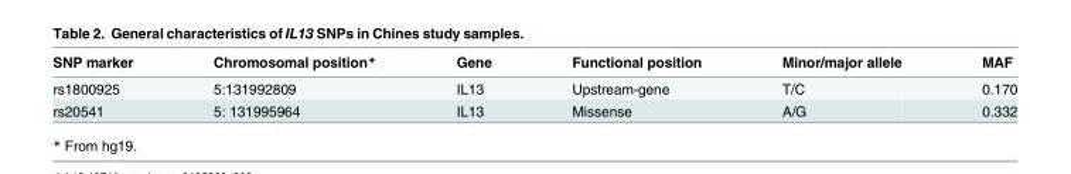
<table><thead><tr><td>SNP marker</td><td>Chromosomal position*</td><td>Gene</td><td>Functional position</td><td>Minor/major allele</td><td>MAF</td></tr></thead><tbody><tr><td>rs1800925</td><td>5:131992809</td><td>IL13</td><td>Upstream-gene</td><td>T/C</td><td>0.170</td></tr><tr><td>rs20541</td><td>5: 131995964</td><td>IL13</td><td>Missense</td><td>A/G</td><td>0.332</td></tr></tbody></table>